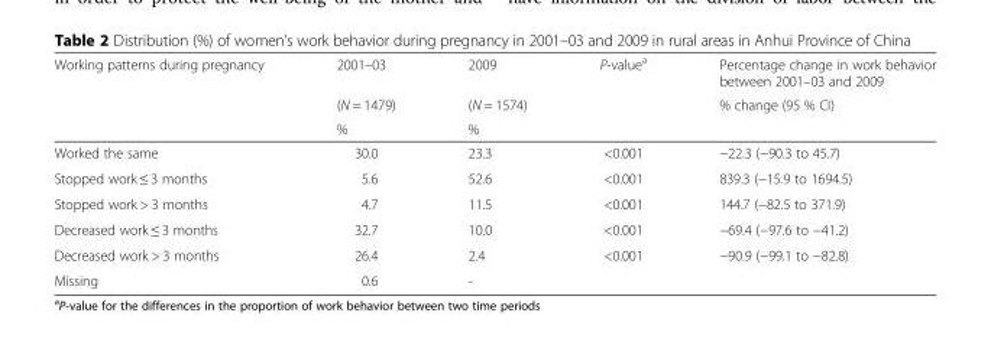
<table><thead><tr><td rowspan="3">Working patterns during pregnancy</td><td rowspan="3">2001–03 (N = 1479) %</td><td rowspan="3">2009 (N = 1574) %</td><td rowspan="3">P-value<sup>a</sup></td><td rowspan="3">Percentage change in work behavior between 2001–03 and 2009 % change (95 % CI)</td></tr><tr></tr><tr></tr></thead><tbody><tr><td>Worked the same</td><td>30.0</td><td>23.3</td><td>&lt;0.001</td><td>−22.3 (−90.3 to 45.7)</td></tr><tr><td>Stopped work ≤ 3 months</td><td>5.6</td><td>52.6</td><td>&lt;0.001</td><td>839.3 (−15.9 to 1694.5)</td></tr><tr><td>Stopped work &gt; 3 months</td><td>4.7</td><td>11.5</td><td>&lt;0.001</td><td>144.7 (−82.5 to 371.9)</td></tr><tr><td>Decreased work ≤ 3 months</td><td>32.7</td><td>10.0</td><td>&lt;0.001</td><td>−69.4 (−97.6 to −41.2)</td></tr><tr><td>Decreased work &gt; 3 months</td><td>26.4</td><td>2.4</td><td>&lt;0.001</td><td>−90.9 (−99.1 to −82.8)</td></tr><tr><td>Missing</td><td>0.6</td><td>-</td><td></td><td></td></tr></tbody></table>